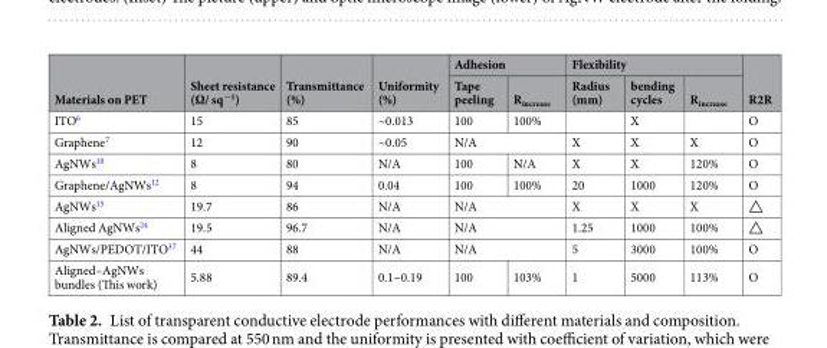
<table><thead><tr><td rowspan="2">Materials on PET</td><td rowspan="2">Sheet resistance (Ω/ sq<sup>−1</sup>)</td><td rowspan="2">Transmittance (%)</td><td rowspan="2">Uniformity (%)</td><td colspan="2">Adhesion</td><td colspan="3">Flexibility</td><td rowspan="2">R2R</td></tr><tr><td>Tape peeling</td><td>R<sub>increase</sub></td><td>Radius (mm)</td><td>bending cycles</td><td>R<sub>increase</sub></td></tr></thead><tbody><tr><td>ITO<sup>6</sup></td><td>15</td><td>85</td><td>~0.013</td><td>100</td><td>100%</td><td></td><td>X</td><td></td><td>O</td></tr><tr><td>Graphene<sup>7</sup></td><td>12</td><td>90</td><td>~0.05</td><td colspan="2">N/A</td><td>X</td><td>X</td><td>X</td><td>O</td></tr><tr><td>AgNWs<sup>10</sup></td><td>8</td><td>80</td><td>N/A</td><td>100</td><td>N/A</td><td>X</td><td>X</td><td>120%</td><td>O</td></tr><tr><td>Graphene/AgNWs<sup>12</sup></td><td>8</td><td>94</td><td>0.04</td><td>100</td><td>100%</td><td>20</td><td>1000</td><td>120%</td><td>O</td></tr><tr><td>AgNWs<sup>15</sup></td><td>19.7</td><td>86</td><td>N/A</td><td colspan="2">N/A</td><td>X</td><td>X</td><td>X</td><td>△</td></tr><tr><td>Aligned AgNWs<sup>24</sup></td><td>19.5</td><td>96.7</td><td>N/A</td><td colspan="2">N/A</td><td>1.25</td><td>1000</td><td>100%</td><td>△</td></tr><tr><td>AgNWs/PEDOT/ITO<sup>37</sup></td><td>44</td><td>88</td><td>N/A</td><td colspan="2">N/A</td><td>5</td><td>3000</td><td>100%</td><td>O</td></tr><tr><td>Aligned–AgNWs bundles (This work)</td><td>5.88</td><td>89.4</td><td>0.1~0.19</td><td>100</td><td>103%</td><td>1</td><td>5000</td><td>113%</td><td>O</td></tr></tbody></table>